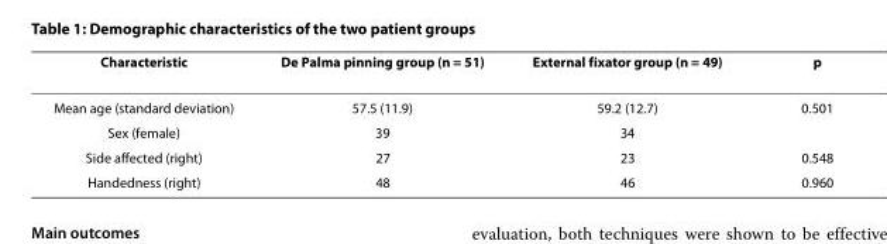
<table><thead><tr><td>Characteristic</td><td>De Palma pinning group (n = 51)</td><td>External fixator group (n = 49)</td><td>p</td></tr></thead><tbody><tr><td>Mean age (standard deviation)</td><td>57.5 (11.9)</td><td>59.2 (12.7)</td><td>0.501</td></tr><tr><td>Sex (female)</td><td>39</td><td>34</td><td></td></tr><tr><td>Side affected (right)</td><td>27</td><td>23</td><td>0.548</td></tr><tr><td>Handedness (right)</td><td>48</td><td>46</td><td>0.960</td></tr></tbody></table>